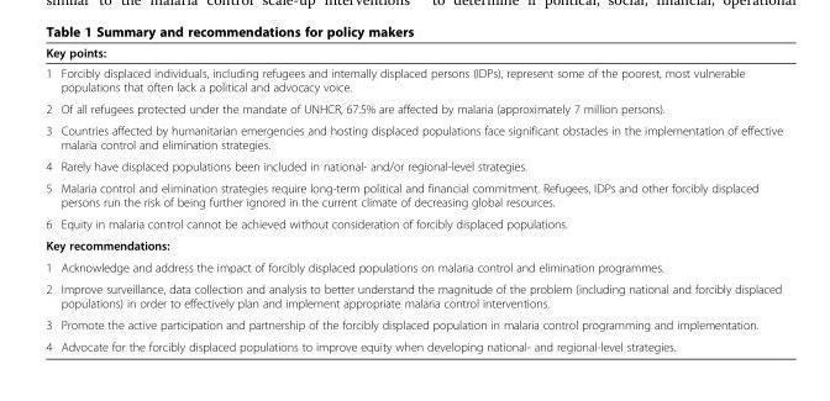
<table><thead><tr><td colspan="2">Key points:</td></tr><tr><td>1</td><td>Forcibly displaced individuals, including refugees and internally displaced persons (IDPs), represent some of the poorest, most vulnerable populations that often lack a political and advocacy voice.</td></tr></thead><tbody><tr><td>2</td><td>Of all refugees protected under the mandate of UNHCR, 67.5% are affected by malaria (approximately 7 million persons).</td></tr><tr><td>3</td><td>Countries affected by humanitarian emergencies and hosting displaced populations face significant obstacles in the implementation of effective malaria control and elimination strategies.</td></tr><tr><td>4</td><td>Rarely have displaced populations been included in national- and/or regional-level strategies.</td></tr><tr><td>5</td><td>Malaria control and elimination strategies require long-term political and financial commitment. Refugees, IDPs and other forcibly displaced persons run the risk of being further ignored in the current climate of decreasing global resources.</td></tr><tr><td>6</td><td>Equity in malaria control cannot be achieved without consideration of forcibly displaced populations.</td></tr><tr><td colspan="2">Key recommendations:</td></tr><tr><td>1</td><td>Acknowledge and address the impact of forcibly displaced populations on malaria control and elimination programmes.</td></tr><tr><td>2</td><td>Improve surveillance, data collection and analysis to better understand the magnitude of the problem (including national and forcibly displaced populations) in order to effectively plan and implement appropriate malaria control interventions.</td></tr><tr><td>3</td><td>Promote the active participation and partnership of the forcibly displaced population in malaria control programming and implementation.</td></tr><tr><td>4</td><td>Advocate for the forcibly displaced populations to improve equity when developing national- and regional-level strategies.</td></tr></tbody></table>